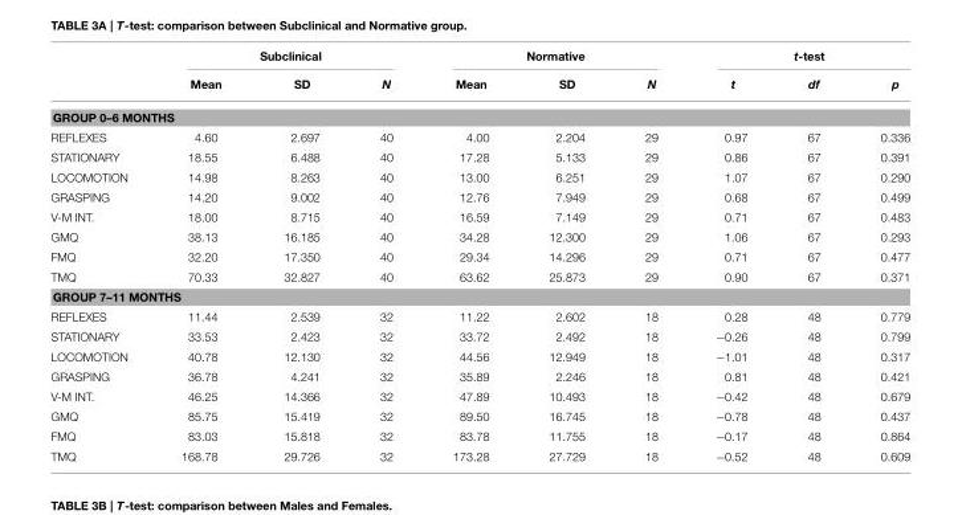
<table><thead><tr><td rowspan="2"></td><td colspan="3">Subclinical</td><td colspan="3">Normative</td><td colspan="3">t-test</td></tr><tr><td>Mean</td><td>SD</td><td>N</td><td>Mean</td><td>SD</td><td>N</td><td>t</td><td>df</td><td>p</td></tr></thead><tbody><tr><td colspan="10">GROUP 0–6 MONTHS</td></tr><tr><td>REFLEXES</td><td>4.60</td><td>2.697</td><td>40</td><td>4.00</td><td>2.204</td><td>29</td><td>0.97</td><td>67</td><td>0.336</td></tr><tr><td>STATIONARY</td><td>18.55</td><td>6.488</td><td>40</td><td>17.28</td><td>5.133</td><td>29</td><td>0.86</td><td>67</td><td>0.391</td></tr><tr><td>LOCOMOTION</td><td>14.98</td><td>8.263</td><td>40</td><td>13.00</td><td>6.251</td><td>29</td><td>1.07</td><td>67</td><td>0.290</td></tr><tr><td>GRASPING</td><td>14.20</td><td>9.002</td><td>40</td><td>12.76</td><td>7.949</td><td>29</td><td>0.68</td><td>67</td><td>0.499</td></tr><tr><td>V-M INT.</td><td>18.00</td><td>8.715</td><td>40</td><td>16.59</td><td>7.149</td><td>29</td><td>0.71</td><td>67</td><td>0.483</td></tr><tr><td>GMQ</td><td>38.13</td><td>16.185</td><td>40</td><td>34.28</td><td>12.300</td><td>29</td><td>1.06</td><td>67</td><td>0.293</td></tr><tr><td>FMQ</td><td>32.20</td><td>17.350</td><td>40</td><td>29.34</td><td>14.296</td><td>29</td><td>0.71</td><td>67</td><td>0.477</td></tr><tr><td>TMQ</td><td>70.33</td><td>32.827</td><td>40</td><td>63.62</td><td>25.873</td><td>29</td><td>0.90</td><td>67</td><td>0.371</td></tr><tr><td colspan="10">GROUP 7–11 MONTHS</td></tr><tr><td>REFLEXES</td><td>11.44</td><td>2.539</td><td>32</td><td>11.22</td><td>2.602</td><td>18</td><td>0.28</td><td>48</td><td>0.779</td></tr><tr><td>STATIONARY</td><td>33.53</td><td>2.423</td><td>32</td><td>33.72</td><td>2.492</td><td>18</td><td>−0.26</td><td>48</td><td>0.799</td></tr><tr><td>LOCOMOTION</td><td>40.78</td><td>12.130</td><td>32</td><td>44.56</td><td>12.949</td><td>18</td><td>−1.01</td><td>48</td><td>0.317</td></tr><tr><td>GRASPING</td><td>36.78</td><td>4.241</td><td>32</td><td>35.89</td><td>2.246</td><td>18</td><td>0.81</td><td>48</td><td>0.421</td></tr><tr><td>V-M INT.</td><td>46.25</td><td>14.366</td><td>32</td><td>47.89</td><td>10.493</td><td>18</td><td>−0.42</td><td>48</td><td>0.679</td></tr><tr><td>GMQ</td><td>85.75</td><td>15.419</td><td>32</td><td>89.50</td><td>16.745</td><td>18</td><td>−0.78</td><td>48</td><td>0.437</td></tr><tr><td>FMQ</td><td>83.03</td><td>15.818</td><td>32</td><td>83.78</td><td>11.755</td><td>18</td><td>−0.17</td><td>48</td><td>0.864</td></tr><tr><td>TMQ</td><td>168.78</td><td>29.726</td><td>32</td><td>173.28</td><td>27.729</td><td>18</td><td>−0.52</td><td>48</td><td>0.609</td></tr></tbody></table>